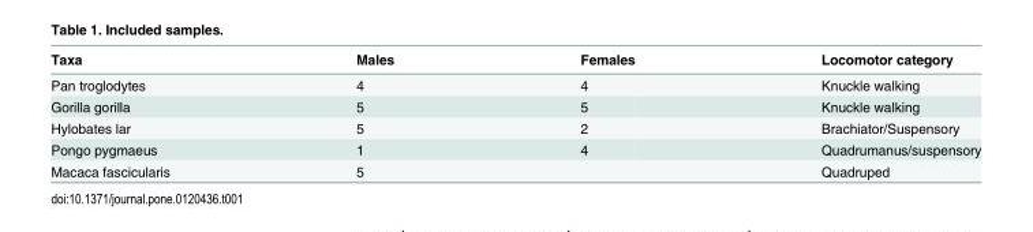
<table><thead><tr><td>Taxa</td><td>Males</td><td>Females</td><td>Locomotor category</td></tr></thead><tbody><tr><td>Pan troglodytes</td><td>4</td><td>4</td><td>Knuckle walking</td></tr><tr><td>Gorilla gorilla</td><td>5</td><td>5</td><td>Knuckle walking</td></tr><tr><td>Hylobates lar</td><td>5</td><td>2</td><td>Brachiator/Suspensory</td></tr><tr><td>Pongo pygmaeus</td><td>1</td><td>4</td><td>Quadrumanus/suspensory</td></tr><tr><td>Macaca fascicularis</td><td>5</td><td></td><td>Quadruped</td></tr></tbody></table>